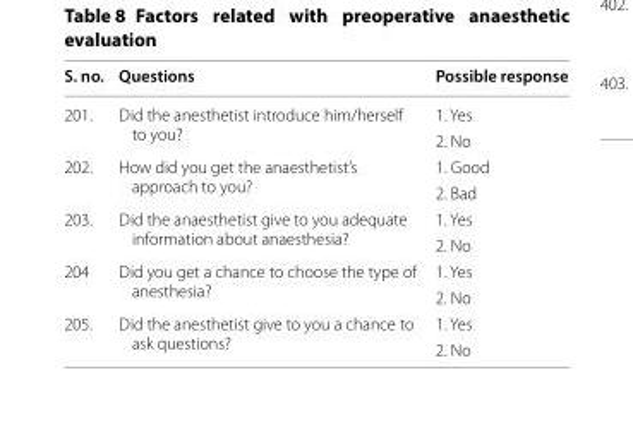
<table><thead><tr><td>S. no.</td><td>Questions</td><td>Possible response</td></tr></thead><tbody><tr><td rowspan="2">201.</td><td rowspan="2">Did the anesthetist introduce him/herself to you?</td><td>1. Yes</td></tr><tr><td>2. No</td></tr><tr><td rowspan="2">202.</td><td rowspan="2">How did you get the anaesthetist’s approach to you?</td><td>1. Good</td></tr><tr><td>2. Bad</td></tr><tr><td rowspan="2">203.</td><td rowspan="2">Did the anaesthetist give to you adequate information about anaesthesia?</td><td>1. Yes</td></tr><tr><td>2. No</td></tr><tr><td rowspan="2">204</td><td rowspan="2">Did you get a chance to choose the type of anesthesia?</td><td>1. Yes</td></tr><tr><td>2. No</td></tr><tr><td rowspan="2">205.</td><td rowspan="2">Did the anesthetist give to you a chance to ask questions?</td><td>1. Yes</td></tr><tr><td>2. No</td></tr></tbody></table>